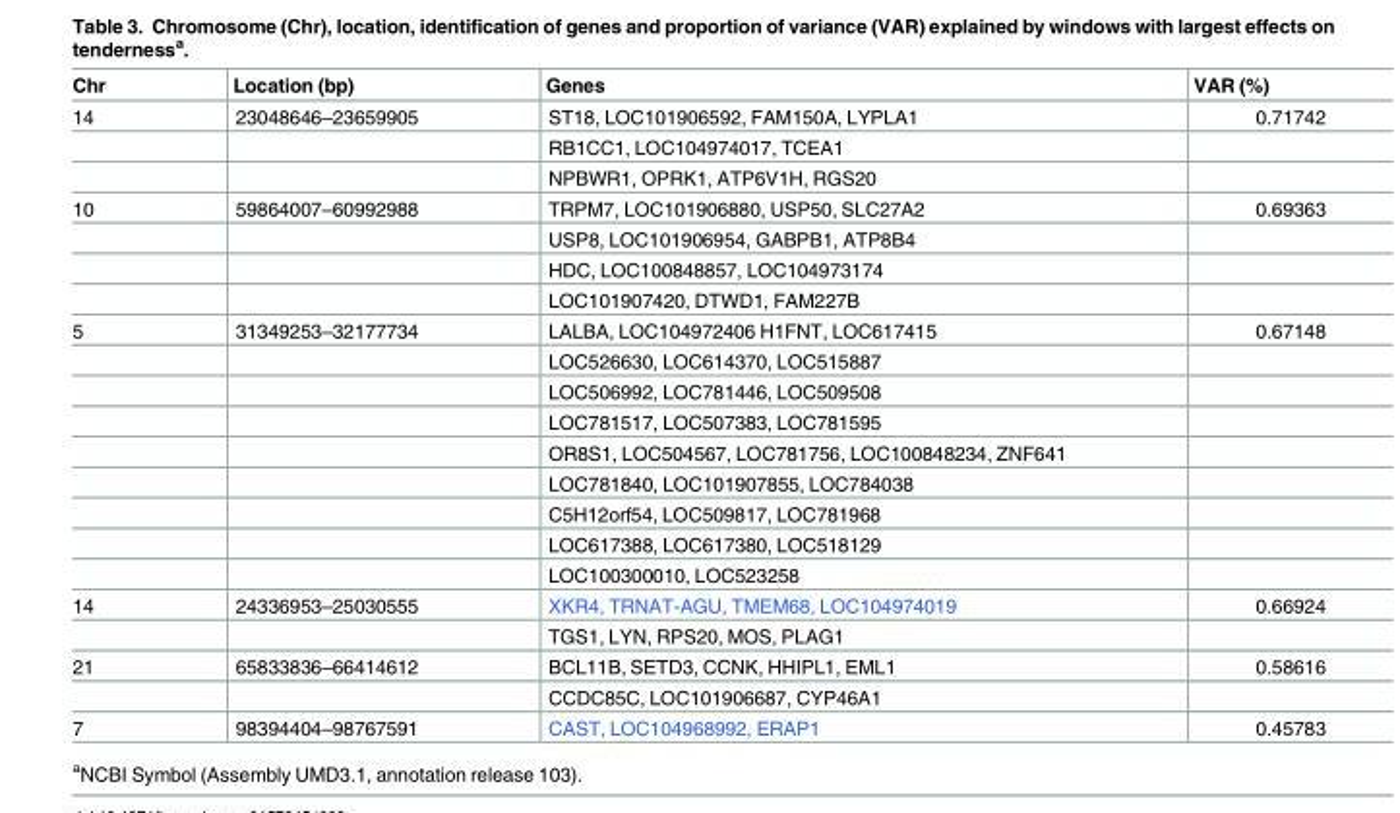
<table><thead><tr><td>Chr</td><td>Location (bp)</td><td>Genes</td><td>VAR (%)</td></tr></thead><tbody><tr><td rowspan="3">14</td><td>23048646–23659905</td><td>ST18, LOC101906592, FAM150A, LYPLA1</td><td>0.71742</td></tr><tr><td></td><td>RB1CC1, LOC104974017, TCEA1</td><td></td></tr><tr><td></td><td>NPBWR1, OPRK1, ATP6V1H, RGS20</td><td></td></tr><tr><td rowspan="4">10</td><td>59864007–60992988</td><td>TRPM7, LOC101906880, USP50, SLC27A2</td><td>0.69363</td></tr><tr><td></td><td>USP8, LOC101906954, GABPB1, ATP8B4</td><td></td></tr><tr><td></td><td>HDC, LOC100848857, LOC104973174</td><td></td></tr><tr><td></td><td>LOC101907420, DTWD1, FAM227B</td><td></td></tr><tr><td rowspan="9">5</td><td>31349253–32177734</td><td>LALBA, LOC104972406 H1FNT, LOC617415</td><td>0.67148</td></tr><tr><td></td><td>LOC526630, LOC614370, LOC515887</td><td></td></tr><tr><td></td><td>LOC506992, LOC781446, LOC509508</td><td></td></tr><tr><td></td><td>LOC781517, LOC507383, LOC781595</td><td></td></tr><tr><td></td><td>OR8S1, LOC504567, LOC781756, LOC100848234, ZNF641</td><td></td></tr><tr><td></td><td>LOC781840, LOC101907855, LOC784038</td><td></td></tr><tr><td></td><td>C5H12orf54, LOC509817, LOC781968</td><td></td></tr><tr><td></td><td>LOC617388, LOC617380, LOC518129</td><td></td></tr><tr><td></td><td>LOC100300010, LOC523258</td><td></td></tr><tr><td rowspan="2">14</td><td>24336953–25030555</td><td>XKR4, TRNAT-AGU, TMEM68, LOC104974019</td><td>0.66924</td></tr><tr><td></td><td>TGS1, LYN, RPS20, MOS, PLAG1</td><td></td></tr><tr><td rowspan="2">21</td><td>65833836–66414612</td><td>BCL11B, SETD3, CCNK, HHIPL1, EML1</td><td>0.58616</td></tr><tr><td></td><td>CCDC85C, LOC101906687, CYP46A1</td><td></td></tr><tr><td>7</td><td>98394404–98767591</td><td>CAST, LOC104968992, ERAP1</td><td>0.45783</td></tr></tbody></table>